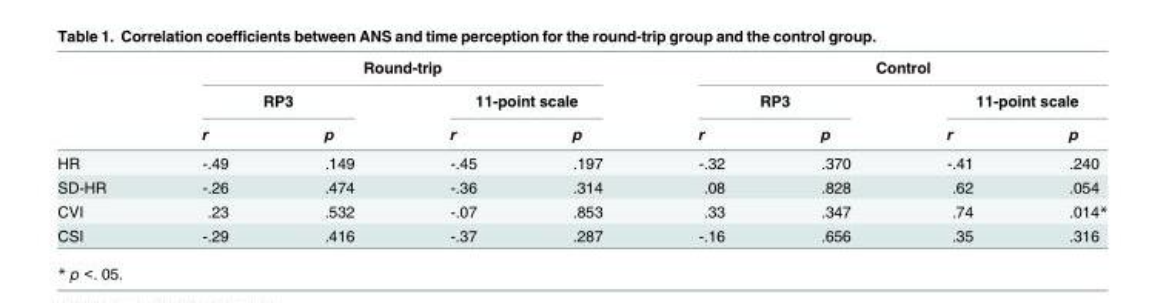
<table><thead><tr><td rowspan="3"></td><td colspan="4">Round-trip</td><td colspan="4">Control</td></tr><tr><td colspan="2">RP3</td><td colspan="2">11-point scale</td><td colspan="2">RP3</td><td colspan="2">11-point scale</td></tr><tr><td>r</td><td>p</td><td>r</td><td>p</td><td>r</td><td>p</td><td>r</td><td>p</td></tr></thead><tbody><tr><td>HR</td><td>-.49</td><td>.149</td><td>-.45</td><td>.197</td><td>-.32</td><td>.370</td><td>-.41</td><td>.240</td></tr><tr><td>SD-HR</td><td>-.26</td><td>.474</td><td>-.36</td><td>.314</td><td>.08</td><td>.828</td><td>.62</td><td>.054</td></tr><tr><td>CVI</td><td>.23</td><td>.532</td><td>-.07</td><td>.853</td><td>.33</td><td>.347</td><td>.74</td><td>.014*</td></tr><tr><td>CSI</td><td>-.29</td><td>.416</td><td>-.37</td><td>.287</td><td>-.16</td><td>.656</td><td>.35</td><td>.316</td></tr></tbody></table>